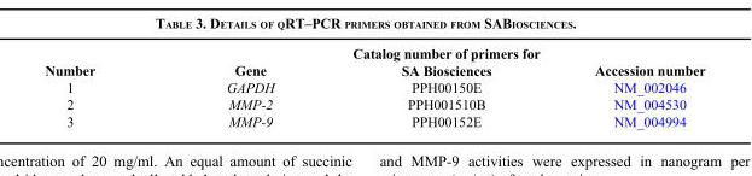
<table><thead><tr><td>Number</td><td>Gene</td><td>Catalog number of primers for SA Biosciences</td><td>Accession number</td></tr></thead><tbody><tr><td>1</td><td>GAPDH</td><td>PPH00150E</td><td>NM_002046</td></tr><tr><td>2</td><td>MMP-2</td><td>PPH001510B</td><td>NM_004530</td></tr><tr><td>3</td><td>MMP-9</td><td>PPH00152E</td><td>NM_004994</td></tr></tbody></table>